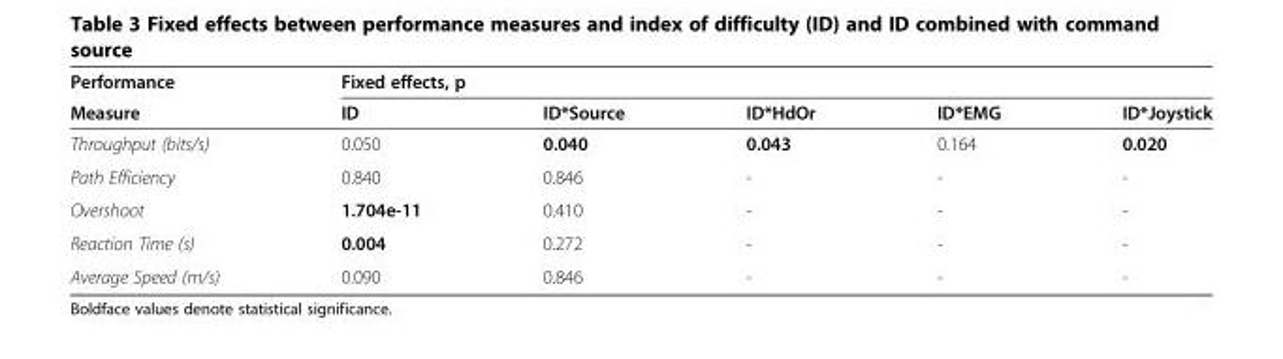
<table><thead><tr><td rowspan="2">Performance Measure</td><td colspan="5">Fixed effects, p</td></tr><tr><td>ID</td><td>ID*Source</td><td>ID*HdOr</td><td>ID*EMG</td><td>ID*Joystick</td></tr></thead><tbody><tr><td>Throughput (bits/s)</td><td>0.050</td><td>0.040</td><td>0.043</td><td>0.164</td><td>0.020</td></tr><tr><td>Path Efficiency</td><td>0.840</td><td>0.846</td><td>-</td><td>-</td><td>-</td></tr><tr><td>Overshoot</td><td>1.704e-11</td><td>0.410</td><td>-</td><td>-</td><td>-</td></tr><tr><td>Reaction Time (s)</td><td>0.004</td><td>0.272</td><td>-</td><td>-</td><td>-</td></tr><tr><td>Average Speed (m/s)</td><td>0.090</td><td>0.846</td><td>-</td><td>-</td><td>-</td></tr></tbody></table>